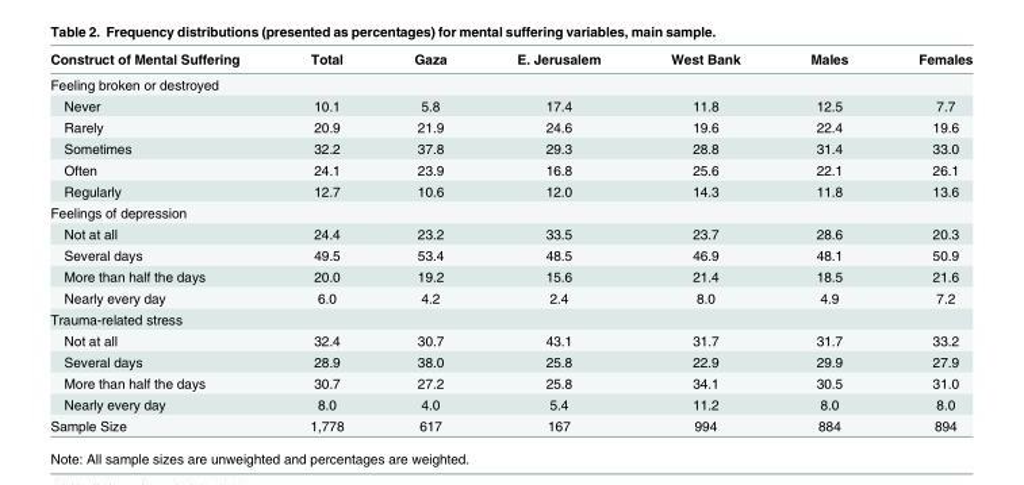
<table><thead><tr><td>Construct of Mental Suffering</td><td>Total</td><td>Gaza</td><td>E. Jerusalem</td><td>West Bank</td><td>Males</td><td>Females</td></tr></thead><tbody><tr><td colspan="7">Feeling broken or destroyed</td></tr><tr><td>Never</td><td>10.1</td><td>5.8</td><td>17.4</td><td>11.8</td><td>12.5</td><td>7.7</td></tr><tr><td>Rarely</td><td>20.9</td><td>21.9</td><td>24.6</td><td>19.6</td><td>22.4</td><td>19.6</td></tr><tr><td>Sometimes</td><td>32.2</td><td>37.8</td><td>29.3</td><td>28.8</td><td>31.4</td><td>33.0</td></tr><tr><td>Often</td><td>24.1</td><td>23.9</td><td>16.8</td><td>25.6</td><td>22.1</td><td>26.1</td></tr><tr><td>Regularly</td><td>12.7</td><td>10.6</td><td>12.0</td><td>14.3</td><td>11.8</td><td>13.6</td></tr><tr><td colspan="7">Feelings of depression</td></tr><tr><td>Not at all</td><td>24.4</td><td>23.2</td><td>33.5</td><td>23.7</td><td>28.6</td><td>20.3</td></tr><tr><td>Several days</td><td>49.5</td><td>53.4</td><td>48.5</td><td>46.9</td><td>48.1</td><td>50.9</td></tr><tr><td>More than half the days</td><td>20.0</td><td>19.2</td><td>15.6</td><td>21.4</td><td>18.5</td><td>21.6</td></tr><tr><td>Nearly every day</td><td>6.0</td><td>4.2</td><td>2.4</td><td>8.0</td><td>4.9</td><td>7.2</td></tr><tr><td colspan="7">Trauma-related stress</td></tr><tr><td>Not at all</td><td>32.4</td><td>30.7</td><td>43.1</td><td>31.7</td><td>31.7</td><td>33.2</td></tr><tr><td>Several days</td><td>28.9</td><td>38.0</td><td>25.8</td><td>22.9</td><td>29.9</td><td>27.9</td></tr><tr><td>More than half the days</td><td>30.7</td><td>27.2</td><td>25.8</td><td>34.1</td><td>30.5</td><td>31.0</td></tr><tr><td>Nearly every day</td><td>8.0</td><td>4.0</td><td>5.4</td><td>11.2</td><td>8.0</td><td>8.0</td></tr><tr><td>Sample Size</td><td>1,778</td><td>617</td><td>167</td><td>994</td><td>884</td><td>894</td></tr></tbody></table>